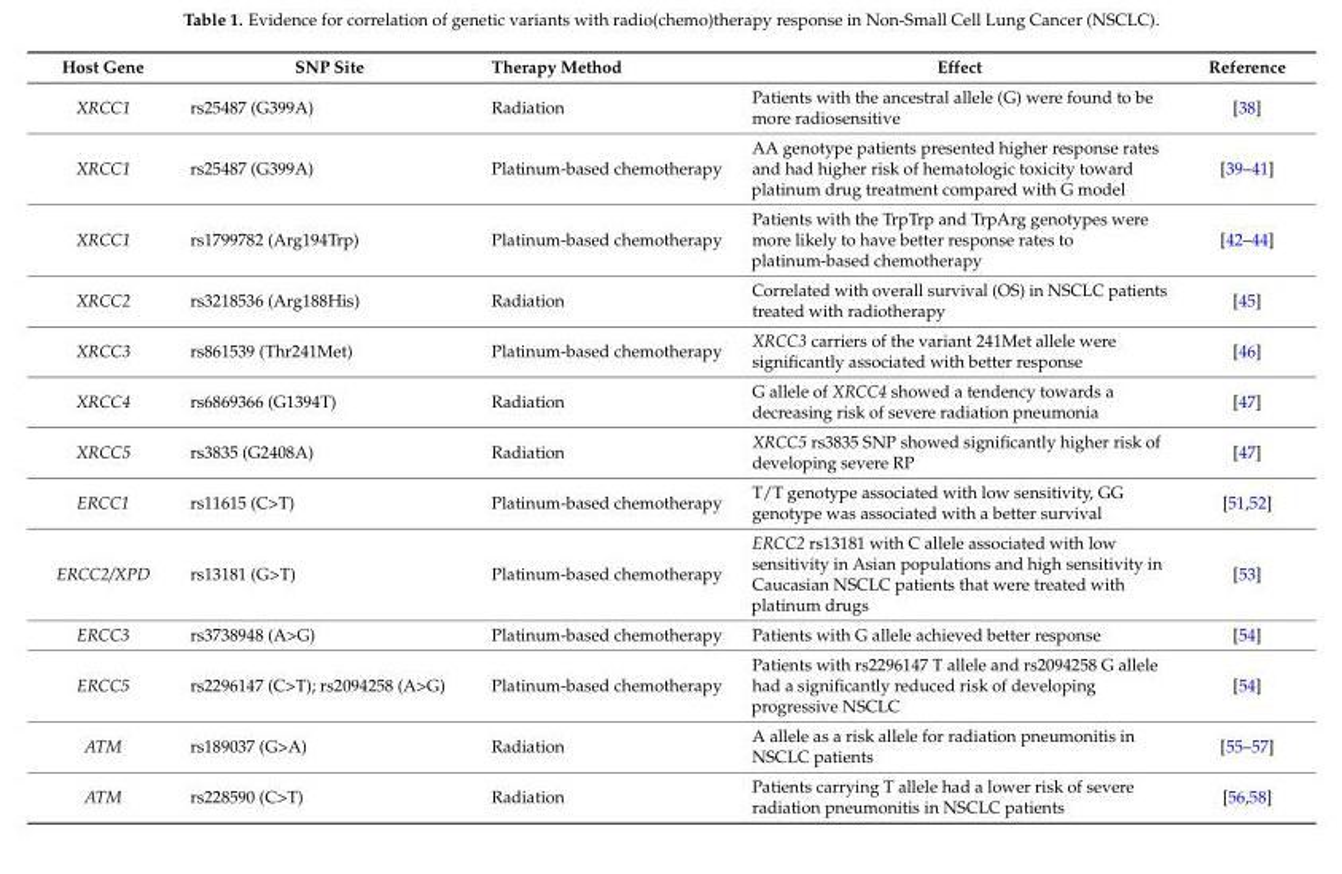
<table><thead><tr><td>Host Gene</td><td>SNP Site</td><td>Therapy Method</td><td>Effect</td><td>Reference</td></tr></thead><tbody><tr><td>XRCC1</td><td>rs25487 (G399A)</td><td>Radiation</td><td>Patients with the ancestral allele (G) were found to be more radiosensitive</td><td>[38]</td></tr><tr><td>XRCC1</td><td>rs25487 (G399A)</td><td>Platinum-based chemotherapy</td><td>AA genotype patients presented higher response rates and had higher risk of hematologic toxicity toward platinum drug treatment compared with G model</td><td>[39–41]</td></tr><tr><td>XRCC1</td><td>rs1799782 (Arg194Trp)</td><td>Platinum-based chemotherapy</td><td>Patients with the TrpTrp and TrpArg genotypes were more likely to have better response rates to platinum-based chemotherapy</td><td>[42–44]</td></tr><tr><td>XRCC2</td><td>rs3218536 (Arg188His)</td><td>Radiation</td><td>Correlated with overall survival (OS) in NSCLC patients treated with radiotherapy</td><td>[45]</td></tr><tr><td>XRCC3</td><td>rs861539 (Thr241Met)</td><td>Platinum-based chemotherapy</td><td>XRCC3 carriers of the variant 241Met allele were significantly associated with better response</td><td>[46]</td></tr><tr><td>XRCC4</td><td>rs6869366 (G1394T)</td><td>Radiation</td><td>G allele of XRCC4 showed a tendency towards a decreasing risk of severe radiation pneumonia</td><td>[47]</td></tr><tr><td>XRCC5</td><td>rs3835 (G2408A)</td><td>Radiation</td><td>XRCC5 rs3835 SNP showed significantly higher risk of developing severe RP</td><td>[47]</td></tr><tr><td>ERCC1</td><td>rs11615 (C&gt;T)</td><td>Platinum-based chemotherapy</td><td>T/T genotype associated with low sensitivity, GG genotype was associated with a better survival</td><td>[51,52]</td></tr><tr><td>ERCC2/XPD</td><td>rs13181 (G&gt;T)</td><td>Platinum-based chemotherapy</td><td>ERCC2 rs13181 with C allele associated with low sensitivity in Asian populations and high sensitivity in Caucasian NSCLC patients that were treated with platinum drugs</td><td>[53]</td></tr><tr><td>ERCC3</td><td>rs3738948 (A&gt;G)</td><td>Platinum-based chemotherapy</td><td>Patients with G allele achieved better response</td><td>[54]</td></tr><tr><td>ERCC5</td><td>rs2296147 (C&gt;T); rs2094258 (A&gt;G)</td><td>Platinum-based chemotherapy</td><td>Patients with rs2296147 T allele and rs2094258 G allele had a significantly reduced risk of developing progressive NSCLC</td><td>[54]</td></tr><tr><td>ATM</td><td>rs189037 (G&gt;A)</td><td>Radiation</td><td>A allele as a risk allele for radiation pneumonitis in NSCLC patients</td><td>[55–57]</td></tr><tr><td>ATM</td><td>rs228590 (C&gt;T)</td><td>Radiation</td><td>Patients carrying T allele had a lower risk of severe radiation pneumonitis in NSCLC patients</td><td>[56,58]</td></tr></tbody></table>